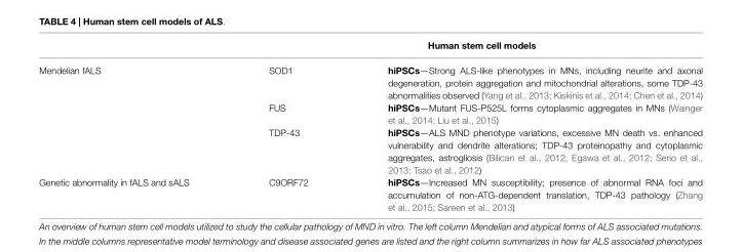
<table><thead><tr><td rowspan="2">Mendelian fALS</td><td colspan="2">Human stem cell models</td></tr><tr><td>SOD1</td><td>hiPSCs—Strong ALS-like phenotypes in MNs, including neurite and axonal degeneration, protein aggregation and mitochondrial alterations, some TDP-43 abnormalities observed (Yang et al., 2013; Kiskinis et al., 2014; Chen et al., 2014)</td></tr></thead><tbody><tr><td></td><td>FUS</td><td>hiPSCs—Mutant FUS-P525L forms cytoplasmic aggregates in MNs (Wainger et al., 2014; Liu et al., 2015)</td></tr><tr><td></td><td>TDP-43</td><td>hiPSCs—ALS MND phenotype variations, excessive MN death vs. enhanced vulnerability and dendrite alterations; TDP-43 proteinopathy and cytoplasmic aggregates, astrogliosis (Bilican et al., 2012; Egawa et al., 2012; Serio et al., 2013; Tsao et al., 2012)</td></tr><tr><td>Genetic abnormality in fALS and sALS</td><td>C9ORF72</td><td>hiPSCs—Increased MN susceptibility; presence of abnormal RNA foci and accumulation of non-ATG-dependent translation, TDP-43 pathology (Zhang et al., 2015; Sareen et al., 2013)</td></tr></tbody></table>